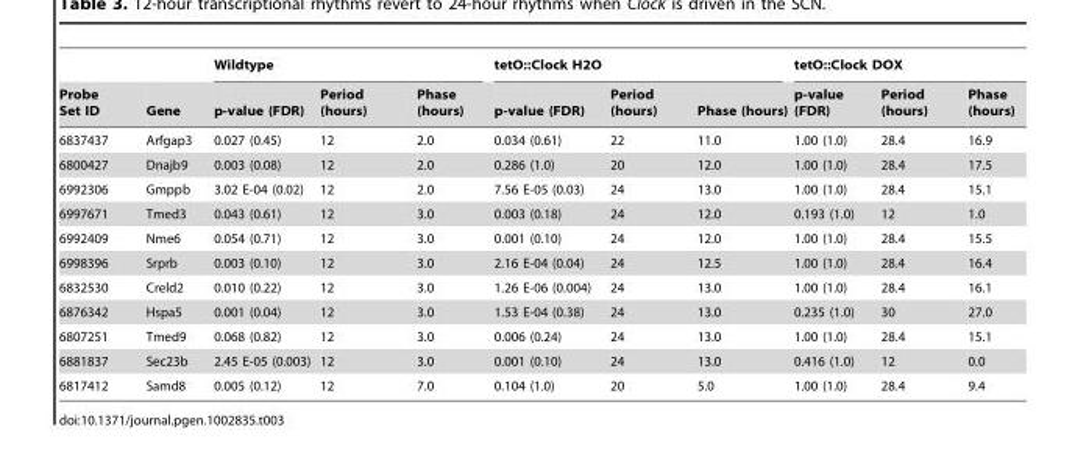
<table><thead><tr><td rowspan="2">Probe Set ID</td><td rowspan="2">Gene</td><td colspan="3">Wildtype</td><td colspan="3">tetO::Clock H2O</td><td colspan="3">tetO::Clock DOX</td></tr><tr><td>p-value (FDR)</td><td>Period (hours)</td><td>Phase (hours)</td><td>p-value (FDR)</td><td>Period (hours)</td><td>Phase (hours)</td><td>p-value (FDR)</td><td>Period (hours)</td><td>Phase (hours)</td></tr></thead><tbody><tr><td>6837437</td><td>Arfgap3</td><td>0.027 (0.45)</td><td>12</td><td>2.0</td><td>0.034 (0.61)</td><td>22</td><td>11.0</td><td>1.00 (1.0)</td><td>28.4</td><td>16.9</td></tr><tr><td>6800427</td><td>Dnajb9</td><td>0.003 (0.08)</td><td>12</td><td>2.0</td><td>0.286 (1.0)</td><td>20</td><td>12.0</td><td>1.00 (1.0)</td><td>28.4</td><td>17.5</td></tr><tr><td>6992306</td><td>Gmppb</td><td>3.02 E-04 (0.02)</td><td>12</td><td>2.0</td><td>7.56 E-05 (0.03)</td><td>24</td><td>13.0</td><td>1.00 (1.0)</td><td>28.4</td><td>15.1</td></tr><tr><td>6997671</td><td>Tmed3</td><td>0.043 (0.61)</td><td>12</td><td>3.0</td><td>0.003 (0.18)</td><td>24</td><td>12.0</td><td>0.193 (1.0)</td><td>12</td><td>1.0</td></tr><tr><td>6992409</td><td>Nme6</td><td>0.054 (0.71)</td><td>12</td><td>3.0</td><td>0.001 (0.10)</td><td>24</td><td>12.0</td><td>1.00 (1.0)</td><td>28.4</td><td>15.5</td></tr><tr><td>6998396</td><td>Srprb</td><td>0.003 (0.10)</td><td>12</td><td>3.0</td><td>2.16 E-04 (0.04)</td><td>24</td><td>12.5</td><td>1.00 (1.0)</td><td>28.4</td><td>16.4</td></tr><tr><td>6832530</td><td>Creld2</td><td>0.010 (0.22)</td><td>12</td><td>3.0</td><td>1.26 E-06 (0.004)</td><td>24</td><td>13.0</td><td>1.00 (1.0)</td><td>28.4</td><td>16.1</td></tr><tr><td>6876342</td><td>Hspa5</td><td>0.001 (0.04)</td><td>12</td><td>3.0</td><td>1.53 E-04 (0.38)</td><td>24</td><td>13.0</td><td>0.235 (1.0)</td><td>30</td><td>27.0</td></tr><tr><td>6807251</td><td>Tmed9</td><td>0.068 (0.82)</td><td>12</td><td>3.0</td><td>0.006 (0.24)</td><td>24</td><td>13.0</td><td>1.00 (1.0)</td><td>28.4</td><td>15.1</td></tr><tr><td>6881837</td><td>Sec23b</td><td>2.45 E-05 (0.003)</td><td>12</td><td>3.0</td><td>0.001 (0.10)</td><td>24</td><td>13.0</td><td>0.416 (1.0)</td><td>12</td><td>0.0</td></tr><tr><td>6817412</td><td>Samd8</td><td>0.005 (0.12)</td><td>12</td><td>7.0</td><td>0.104 (1.0)</td><td>20</td><td>5.0</td><td>1.00 (1.0)</td><td>28.4</td><td>9.4</td></tr></tbody></table>